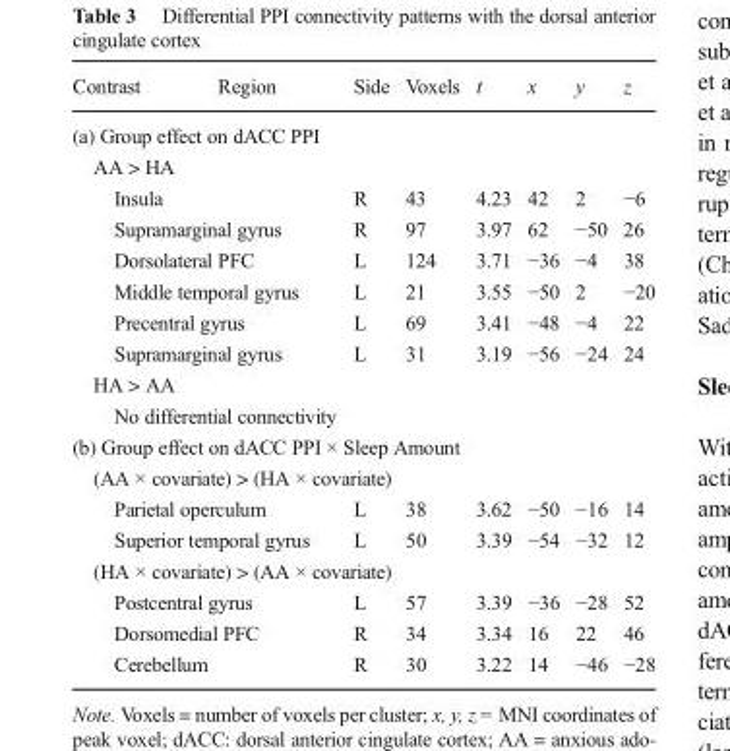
<table><thead><tr><td>Contrast</td><td>Region</td><td>Side</td><td>Voxels</td><td>t</td><td>x</td><td>y</td><td>z</td></tr></thead><tbody><tr><td colspan="8">(a) Group effect on dACC PPI</td></tr><tr><td colspan="8">AA &gt; HA</td></tr><tr><td colspan="2">Insula</td><td>R</td><td>43</td><td>4.23</td><td>42</td><td>2</td><td>−6</td></tr><tr><td colspan="2">Supramarginal gyrus</td><td>R</td><td>97</td><td>3.97</td><td>62</td><td>−50</td><td>26</td></tr><tr><td colspan="2">Dorsolateral PFC</td><td>L</td><td>124</td><td>3.71</td><td>−36</td><td>−4</td><td>38</td></tr><tr><td colspan="2">Middle temporal gyrus</td><td>L</td><td>21</td><td>3.55</td><td>−50</td><td>2</td><td>−20</td></tr><tr><td colspan="2">Precentral gyrus</td><td>L</td><td>69</td><td>3.41</td><td>−48</td><td>−4</td><td>22</td></tr><tr><td colspan="2">Supramarginal gyrus</td><td>L</td><td>31</td><td>3.19</td><td>−56</td><td>−24</td><td>24</td></tr><tr><td colspan="8">HA &gt; AA</td></tr><tr><td colspan="8">No differential connectivity</td></tr><tr><td colspan="8">(b) Group effect on dACC PPI × Sleep Amount</td></tr><tr><td colspan="8">(AA × covariate) &gt; (HA × covariate)</td></tr><tr><td colspan="2">Parietal operculum</td><td>L</td><td>38</td><td>3.62</td><td>−50</td><td>−16</td><td>14</td></tr><tr><td colspan="2">Superior temporal gyrus</td><td>L</td><td>50</td><td>3.39</td><td>−54</td><td>−32</td><td>12</td></tr><tr><td colspan="8">(HA × covariate) &gt; (AA × covariate)</td></tr><tr><td colspan="2">Postcentral gyrus</td><td>L</td><td>57</td><td>3.39</td><td>−36</td><td>−28</td><td>52</td></tr><tr><td colspan="2">Dorsomedial PFC</td><td>R</td><td>34</td><td>3.34</td><td>16</td><td>22</td><td>46</td></tr><tr><td colspan="2">Cerebellum</td><td>R</td><td>30</td><td>3.22</td><td>14</td><td>−46</td><td>−28</td></tr></tbody></table>